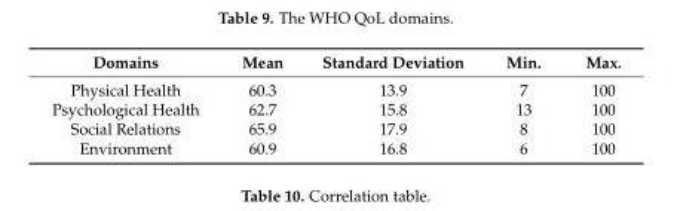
<table><thead><tr><td>Domains</td><td>Mean</td><td>Standard Deviation</td><td>Min.</td><td>Max.</td></tr></thead><tbody><tr><td>Physical Health</td><td>60.3</td><td>13.9</td><td>7</td><td>100</td></tr><tr><td>Psychological Health</td><td>62.7</td><td>15.8</td><td>13</td><td>100</td></tr><tr><td>Social Relations</td><td>65.9</td><td>17.9</td><td>8</td><td>100</td></tr><tr><td>Environment</td><td>60.9</td><td>16.8</td><td>6</td><td>100</td></tr></tbody></table>